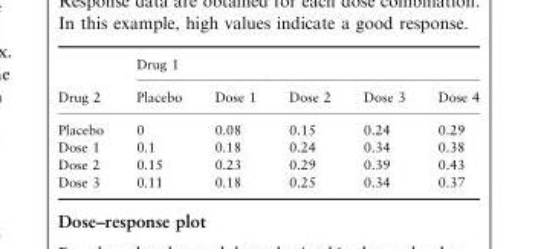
<table><thead><tr><td rowspan="2">Drug 2</td><td colspan="5">Drug 1</td></tr><tr><td>Placebo</td><td>Dose 1</td><td>Dose 2</td><td>Dose 3</td><td>Dose 4</td></tr></thead><tbody><tr><td>Placebo</td><td>0</td><td>0.08</td><td>0.15</td><td>0.24</td><td>0.29</td></tr><tr><td>Dose 1</td><td>0.1</td><td>0.18</td><td>0.24</td><td>0.34</td><td>0.38</td></tr><tr><td>Dose 2</td><td>0.15</td><td>0.23</td><td>0.29</td><td>0.39</td><td>0.43</td></tr><tr><td>Dose 3</td><td>0.11</td><td>0.18</td><td>0.25</td><td>0.34</td><td>0.37</td></tr></tbody></table>